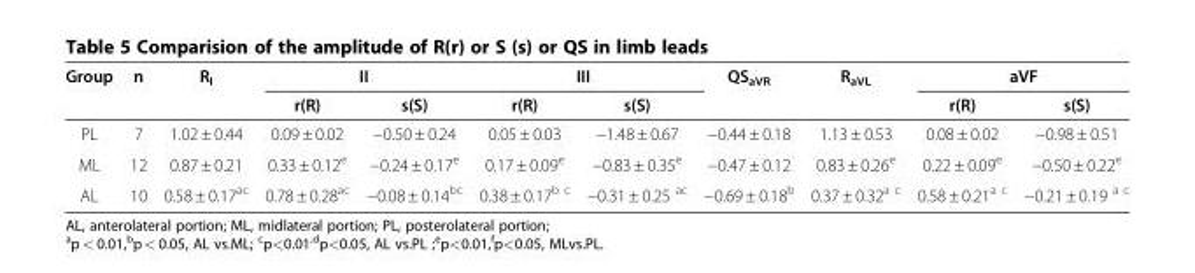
<table><thead><tr><td rowspan="2">Group</td><td rowspan="2">n</td><td rowspan="2">R<sub>I</sub></td><td colspan="2">II</td><td colspan="2">III</td><td rowspan="2">QS<sub>aVR</sub></td><td rowspan="2">R<sub>aVL</sub></td><td colspan="2">aVF</td></tr><tr><td>r(R)</td><td>s(S)</td><td>r(R)</td><td>s(S)</td><td>r(R)</td><td>s(S)</td></tr></thead><tbody><tr><td>PL</td><td>7</td><td>1.02 ± 0.44</td><td>0.09 ± 0.02</td><td>−0.50 ± 0.24</td><td>0.05 ± 0.03</td><td>−1.48 ± 0.67</td><td>−0.44 ± 0.18</td><td>1.13 ± 0.53</td><td>0.08 ± 0.02</td><td>−0.98 ± 0.51</td></tr><tr><td>ML</td><td>12</td><td>0.87 ± 0.21</td><td>0.33 ± 0.12<sup>e</sup></td><td>−0.24 ± 0.17<sup>e</sup></td><td>0.17 ± 0.09<sup>e</sup></td><td>−0.83 ± 0.35<sup>e</sup></td><td>−0.47 ± 0.12</td><td>0.83 ± 0.26<sup>e</sup></td><td>0.22 ± 0.09<sup>e</sup></td><td>−0.50 ± 0.22<sup>e</sup></td></tr><tr><td>AL</td><td>10</td><td>0.58 ± 0.17<sup>ac</sup></td><td>0.78 ± 0.28<sup>ac</sup></td><td>−0.08 ± 0.14<sup>bc</sup></td><td>0.38 ± 0.17<sup>b c</sup></td><td>−0.31 ± 0.25 <sup>ac</sup></td><td>−0.69 ± 0.18<sup>b</sup></td><td>0.37 ± 0.32<sup>a c</sup></td><td>0.58 ± 0.21<sup>a c</sup></td><td>−0.21 ± 0.19 <sup>a c</sup></td></tr></tbody></table>